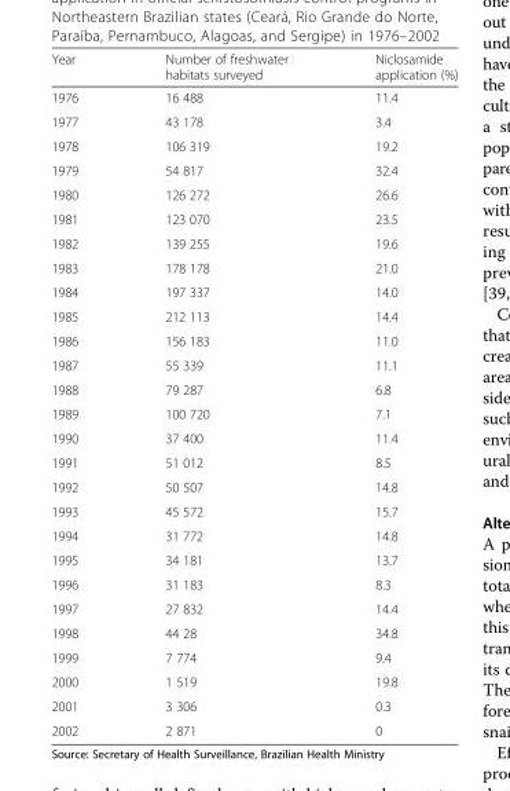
<table><thead><tr><td>Year</td><td>Number of freshwater habitats surveyed</td><td>Niclosamide application (%)</td></tr></thead><tbody><tr><td>1976</td><td>16 488</td><td>11.4</td></tr><tr><td>1977</td><td>43 178</td><td>3.4</td></tr><tr><td>1978</td><td>106 319</td><td>19.2</td></tr><tr><td>1979</td><td>54 817</td><td>32.4</td></tr><tr><td>1980</td><td>126 272</td><td>26.6</td></tr><tr><td>1981</td><td>123 070</td><td>23.5</td></tr><tr><td>1982</td><td>139 255</td><td>19.6</td></tr><tr><td>1983</td><td>178 178</td><td>21.0</td></tr><tr><td>1984</td><td>197 337</td><td>14.0</td></tr><tr><td>1985</td><td>212 113</td><td>14.4</td></tr><tr><td>1986</td><td>156 183</td><td>11.0</td></tr><tr><td>1987</td><td>55 339</td><td>11.1</td></tr><tr><td>1988</td><td>79 287</td><td>6.8</td></tr><tr><td>1989</td><td>100 720</td><td>7.1</td></tr><tr><td>1990</td><td>37 400</td><td>11.4</td></tr><tr><td>1991</td><td>51 012</td><td>8.5</td></tr><tr><td>1992</td><td>50 507</td><td>14.8</td></tr><tr><td>1993</td><td>45 572</td><td>15.7</td></tr><tr><td>1994</td><td>31 772</td><td>14.8</td></tr><tr><td>1995</td><td>34 181</td><td>13.7</td></tr><tr><td>1996</td><td>31 183</td><td>8.3</td></tr><tr><td>1997</td><td>27 832</td><td>14.4</td></tr><tr><td>1998</td><td>44 28</td><td>34.8</td></tr><tr><td>1999</td><td>7 774</td><td>9.4</td></tr><tr><td>2000</td><td>1 519</td><td>19.8</td></tr><tr><td>2001</td><td>3 306</td><td>0.3</td></tr><tr><td>2002</td><td>2 871</td><td>0</td></tr></tbody></table>